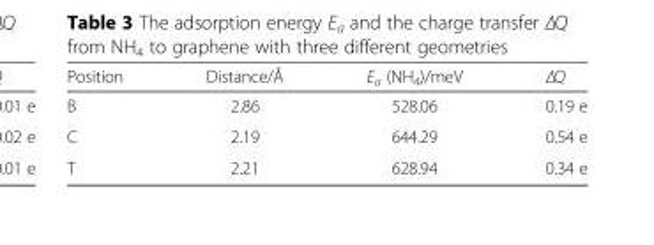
<table><thead><tr><td>Position</td><td>Distance/Å</td><td>E<sub>a</sub> (NH<sub>4</sub>)/meV</td><td>ΔQ</td></tr></thead><tbody><tr><td>B</td><td>2.86</td><td>528.06</td><td>0.19 e</td></tr><tr><td>C</td><td>2.19</td><td>644.29</td><td>0.54 e</td></tr><tr><td>T</td><td>2.21</td><td>628.94</td><td>0.34 e</td></tr></tbody></table>